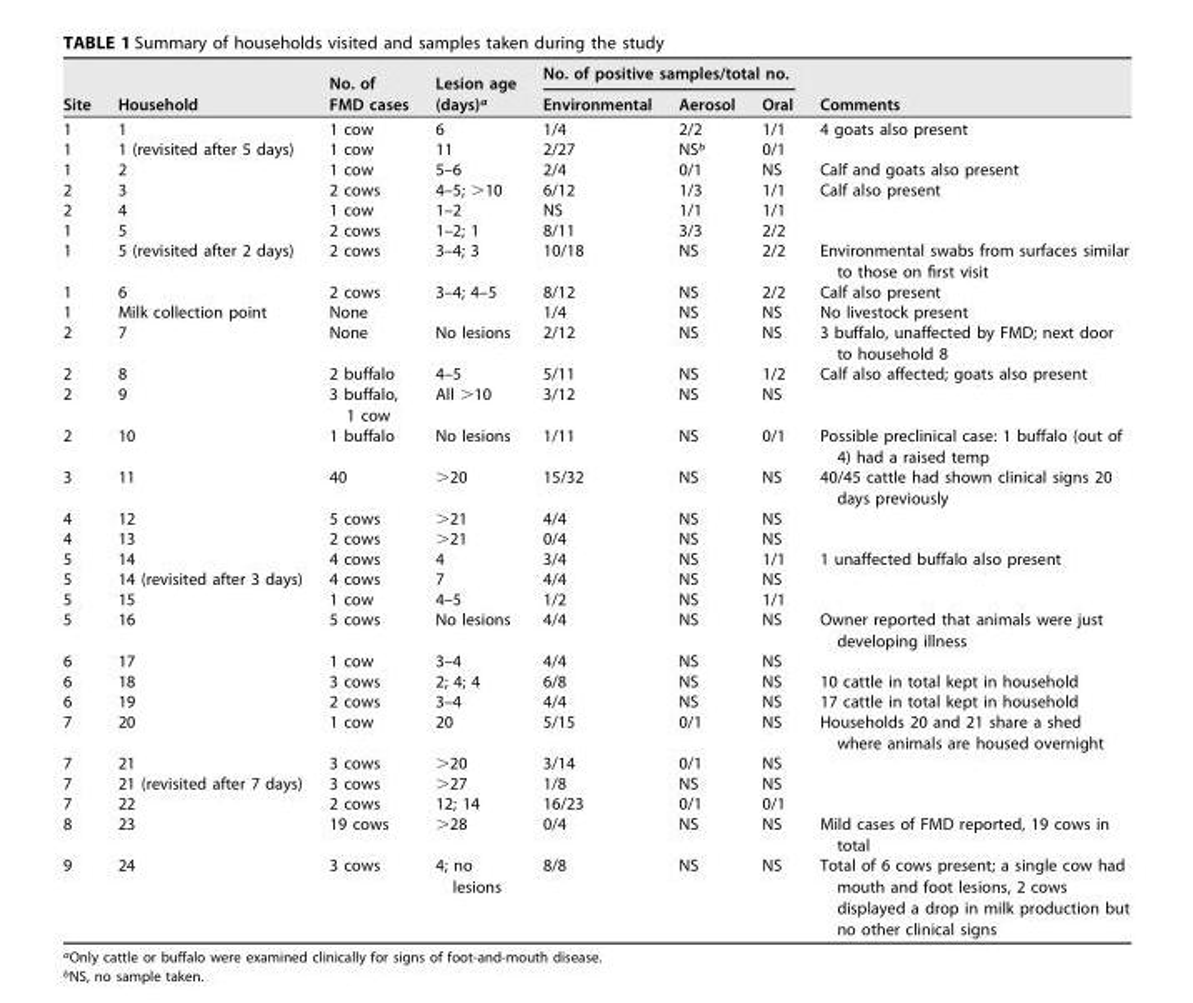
<table><thead><tr><td rowspan="2">Site</td><td rowspan="2">Household</td><td rowspan="2">No. of FMD cases</td><td rowspan="2">Lesion age (days)<sup>a</sup></td><td colspan="3">No. of positive samples/total no.</td><td rowspan="2">Comments</td></tr><tr><td>Environmental</td><td>Aerosol</td><td>Oral</td></tr></thead><tbody><tr><td>1</td><td>1</td><td>1 cow</td><td>6</td><td>1/4</td><td>2/2</td><td>1/1</td><td>4 goats also present</td></tr><tr><td>1</td><td>1 (revisited after 5 days)</td><td>1 cow</td><td>11</td><td>2/27</td><td>NS<sup>b</sup></td><td>0/1</td><td></td></tr><tr><td>1</td><td>2</td><td>1 cow</td><td>5–6</td><td>2/4</td><td>0/1</td><td>NS</td><td>Calf and goats also present</td></tr><tr><td>2</td><td>3</td><td>2 cows</td><td>4–5; &gt;10</td><td>6/12</td><td>1/3</td><td>1/1</td><td>Calf also present</td></tr><tr><td>2</td><td>4</td><td>1 cow</td><td>1–2</td><td>NS</td><td>1/1</td><td>1/1</td><td></td></tr><tr><td>1</td><td>5</td><td>2 cows</td><td>1–2; 1</td><td>8/11</td><td>3/3</td><td>2/2</td><td></td></tr><tr><td>1</td><td>5 (revisited after 2 days)</td><td>2 cows</td><td>3–4; 3</td><td>10/18</td><td>NS</td><td>2/2</td><td>Environmental swabs from surfaces similar to those on first visit</td></tr><tr><td>1</td><td>6</td><td>2 cows</td><td>3–4; 4–5</td><td>8/12</td><td>NS</td><td>2/2</td><td>Calf also present</td></tr><tr><td>1</td><td>Milk collection point</td><td>None</td><td></td><td>1/4</td><td>NS</td><td>NS</td><td>No livestock present</td></tr><tr><td>2</td><td>7</td><td>None</td><td>No lesions</td><td>2/12</td><td>NS</td><td>NS</td><td>3 buffalo, unaffected by FMD; next door to household 8</td></tr><tr><td>2</td><td>8</td><td>2 buffalo</td><td>4–5</td><td>5/11</td><td>NS</td><td>1/2</td><td>Calf also affected; goats also present</td></tr><tr><td>2</td><td>9</td><td>3 buffalo, 1 cow</td><td>All &gt;10</td><td>3/12</td><td>NS</td><td>NS</td><td></td></tr><tr><td>2</td><td>10</td><td>1 buffalo</td><td>No lesions</td><td>1/11</td><td>NS</td><td>0/1</td><td>Possible preclinical case: 1 buffalo (out of 4) had a raised temp</td></tr><tr><td>3</td><td>11</td><td>40</td><td>&gt;20</td><td>15/32</td><td>NS</td><td>NS</td><td>40/45 cattle had shown clinical signs 20 days previously</td></tr><tr><td>4</td><td>12</td><td>5 cows</td><td>&gt;21</td><td>4/4</td><td>NS</td><td>NS</td><td></td></tr><tr><td>4</td><td>13</td><td>2 cows</td><td>&gt;21</td><td>0/4</td><td>NS</td><td>NS</td><td></td></tr><tr><td>5</td><td>14</td><td>4 cows</td><td>4</td><td>3/4</td><td>NS</td><td>1/1</td><td>1 unaffected buffalo also present</td></tr><tr><td>5</td><td>14 (revisited after 3 days)</td><td>4 cows</td><td>7</td><td>4/4</td><td>NS</td><td>NS</td><td></td></tr><tr><td>5</td><td>15</td><td>1 cow</td><td>4–5</td><td>1/2</td><td>NS</td><td>1/1</td><td></td></tr><tr><td>5</td><td>16</td><td>5 cows</td><td>No lesions</td><td>4/4</td><td>NS</td><td>NS</td><td>Owner reported that animals were just developing illness</td></tr><tr><td>6</td><td>17</td><td>1 cow</td><td>3–4</td><td>4/4</td><td>NS</td><td>NS</td><td></td></tr><tr><td>6</td><td>18</td><td>3 cows</td><td>2; 4; 4</td><td>6/8</td><td>NS</td><td>NS</td><td>10 cattle in total kept in household</td></tr><tr><td>6</td><td>19</td><td>2 cows</td><td>3–4</td><td>4/4</td><td>NS</td><td>NS</td><td>17 cattle in total kept in household</td></tr><tr><td>7</td><td>20</td><td>1 cow</td><td>20</td><td>5/15</td><td>0/1</td><td>NS</td><td>Households 20 and 21 share a shed where animals are housed overnight</td></tr><tr><td>7</td><td>21</td><td>3 cows</td><td>&gt;20</td><td>3/14</td><td>0/1</td><td>NS</td><td></td></tr><tr><td>7</td><td>21 (revisited after 7 days)</td><td>3 cows</td><td>&gt;27</td><td>1/8</td><td>NS</td><td>NS</td><td></td></tr><tr><td>7</td><td>22</td><td>2 cows</td><td>12; 14</td><td>16/23</td><td>0/1</td><td>0/1</td><td></td></tr><tr><td>8</td><td>23</td><td>19 cows</td><td>&gt;28</td><td>0/4</td><td>NS</td><td>NS</td><td>Mild cases of FMD reported, 19 cows in total</td></tr><tr><td>9</td><td>24</td><td>3 cows</td><td>4; no lesions</td><td>8/8</td><td>NS</td><td>NS</td><td>Total of 6 cows present; a single cow had mouth and foot lesions, 2 cows displayed a drop in milk production but no other clinical signs</td></tr></tbody></table>